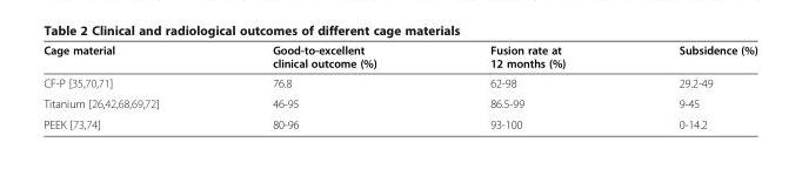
<table><thead><tr><td>Cage material</td><td>Good-to-excellent clinical outcome (%)</td><td>Fusion rate at 12 months (%)</td><td>Subsidence (%)</td></tr></thead><tbody><tr><td>CF-P [35,70,71]</td><td>76.8</td><td>62-98</td><td>29.2-49</td></tr><tr><td>Titanium [26,42,68,69,72]</td><td>46-95</td><td>86.5-99</td><td>9-45</td></tr><tr><td>PEEK [73,74]</td><td>80-96</td><td>93-100</td><td>0-14.2</td></tr></tbody></table>